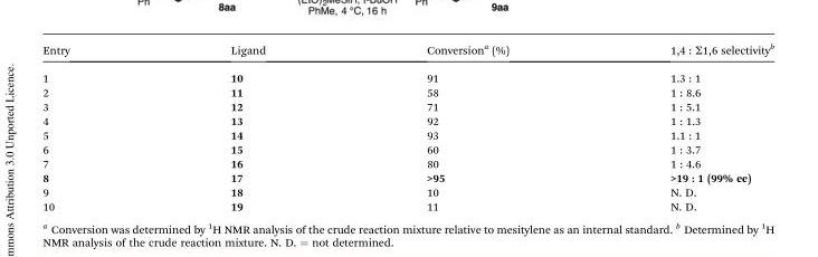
<table><thead><tr><td>Entry</td><td>Ligand</td><td>Conversion<sup>a</sup> (%)</td><td>1,4 : Σ1,6 selectivity<sup>b</sup></td></tr></thead><tbody><tr><td>1</td><td>10</td><td>91</td><td>1.3 : 1</td></tr><tr><td>2</td><td>11</td><td>58</td><td>1 : 8.6</td></tr><tr><td>3</td><td>12</td><td>71</td><td>1 : 5.1</td></tr><tr><td>4</td><td>13</td><td>92</td><td>1 : 1.3</td></tr><tr><td>5</td><td>14</td><td>93</td><td>1.1 : 1</td></tr><tr><td>6</td><td>15</td><td>60</td><td>1 : 3.7</td></tr><tr><td>7</td><td>16</td><td>80</td><td>1 : 4.6</td></tr><tr><td>8</td><td>17</td><td>&gt;95</td><td>&gt;19 : 1 (99% ee)</td></tr><tr><td>9</td><td>18</td><td>10</td><td>N. D.</td></tr><tr><td>10</td><td>19</td><td>11</td><td>N. D.</td></tr></tbody></table>